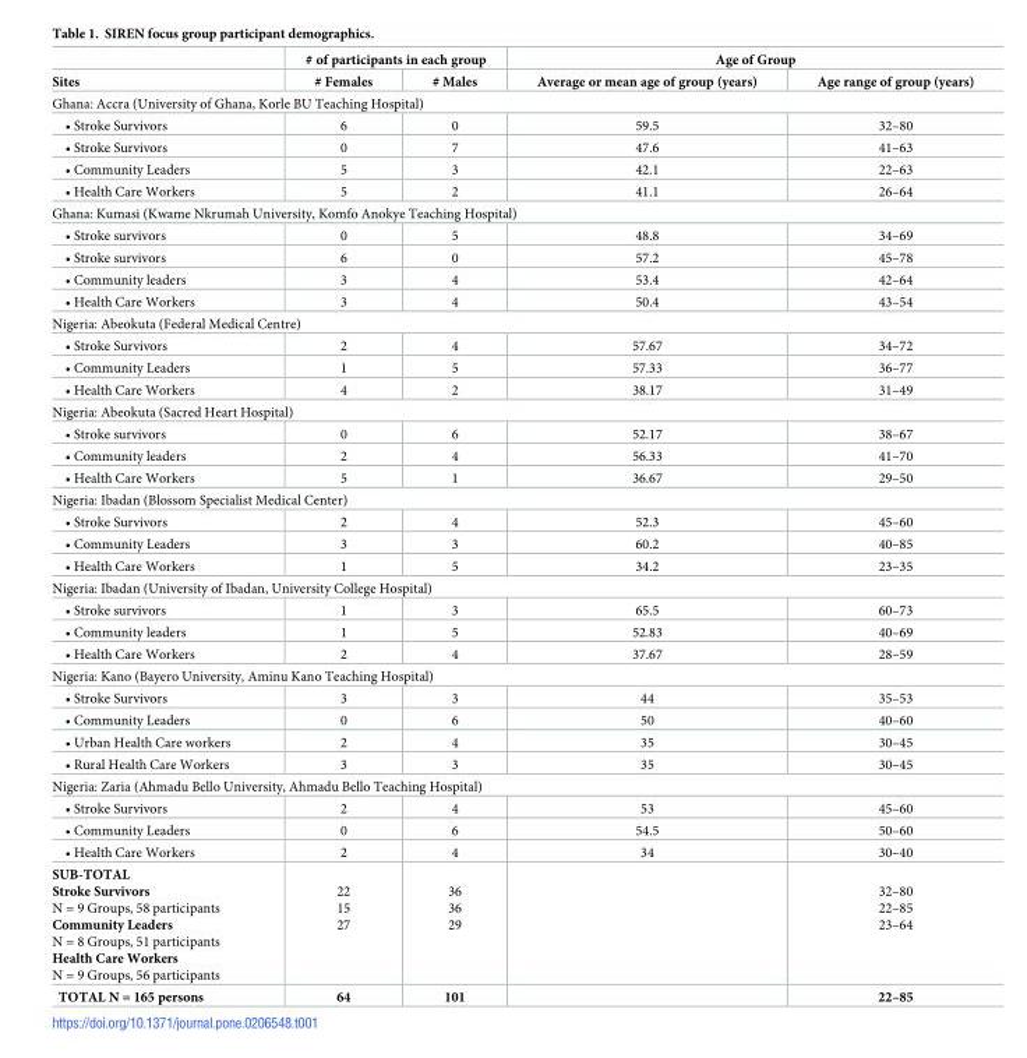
<table><thead><tr><td rowspan="2">Sites</td><td colspan="2"># of participants in each group</td><td colspan="2">Age of Group</td></tr><tr><td># Females</td><td># Males</td><td>Average or mean age of group (years)</td><td>Age range of group (years)</td></tr></thead><tbody><tr><td colspan="5">Ghana: Accra (University of Ghana, Korle BU Teaching Hospital)</td></tr><tr><td>• Stroke Survivors</td><td>6</td><td>0</td><td>59.5</td><td>32–80</td></tr><tr><td>• Stroke Survivors</td><td>0</td><td>7</td><td>47.6</td><td>41–63</td></tr><tr><td>• Community Leaders</td><td>5</td><td>3</td><td>42.1</td><td>22–63</td></tr><tr><td>• Health Care Workers</td><td>5</td><td>2</td><td>41.1</td><td>26–64</td></tr><tr><td colspan="5">Ghana: Kumasi (Kwame Nkrumah University, Komfo Anokye Teaching Hospital)</td></tr><tr><td>• Stroke survivors</td><td>0</td><td>5</td><td>48.8</td><td>34–69</td></tr><tr><td>• Stroke survivors</td><td>6</td><td>0</td><td>57.2</td><td>45–78</td></tr><tr><td>• Community leaders</td><td>3</td><td>4</td><td>53.4</td><td>42–64</td></tr><tr><td>• Health Care Workers</td><td>3</td><td>4</td><td>50.4</td><td>43–54</td></tr><tr><td colspan="5">Nigeria: Abeokuta (Federal Medical Centre)</td></tr><tr><td>• Stroke Survivors</td><td>2</td><td>4</td><td>57.67</td><td>34–72</td></tr><tr><td>• Community Leaders</td><td>1</td><td>5</td><td>57.33</td><td>36–77</td></tr><tr><td>• Health Care Workers</td><td>4</td><td>2</td><td>38.17</td><td>31–49</td></tr><tr><td colspan="5">Nigeria: Abeokuta (Sacred Heart Hospital)</td></tr><tr><td>• Stroke survivors</td><td>0</td><td>6</td><td>52.17</td><td>38–67</td></tr><tr><td>• Community leaders</td><td>2</td><td>4</td><td>56.33</td><td>41–70</td></tr><tr><td>• Health Care Workers</td><td>5</td><td>1</td><td>36.67</td><td>29–50</td></tr><tr><td colspan="5">Nigeria: Ibadan (Blossom Specialist Medical Center)</td></tr><tr><td>• Stroke Survivors</td><td>2</td><td>4</td><td>52.3</td><td>45–60</td></tr><tr><td>• Community Leaders</td><td>3</td><td>3</td><td>60.2</td><td>40–85</td></tr><tr><td>• Health Care Workers</td><td>1</td><td>5</td><td>34.2</td><td>23–35</td></tr><tr><td colspan="5">Nigeria: Ibadan (University of Ibadan, University College Hospital)</td></tr><tr><td>• Stroke survivors</td><td>1</td><td>3</td><td>65.5</td><td>60–73</td></tr><tr><td>• Community leaders</td><td>1</td><td>5</td><td>52.83</td><td>40–69</td></tr><tr><td>• Health Care Workers</td><td>2</td><td>4</td><td>37.67</td><td>28–59</td></tr><tr><td colspan="5">Nigeria: Kano (Bayero University, Aminu Kano Teaching Hospital)</td></tr><tr><td>• Stroke Survivors</td><td>3</td><td>3</td><td>44</td><td>35–53</td></tr><tr><td>• Community Leaders</td><td>0</td><td>6</td><td>50</td><td>40–60</td></tr><tr><td>• Urban Health Care workers</td><td>2</td><td>4</td><td>35</td><td>30–45</td></tr><tr><td>• Rural Health Care Workers</td><td>3</td><td>3</td><td>35</td><td>30–45</td></tr><tr><td colspan="5">Nigeria: Zaria (Ahmadu Bello University, Ahmadu Bello Teaching Hospital)</td></tr><tr><td>• Stroke Survivors</td><td>2</td><td>4</td><td>53</td><td>45–60</td></tr><tr><td>• Community Leaders</td><td>0</td><td>6</td><td>54.5</td><td>50–60</td></tr><tr><td>• Health Care Workers</td><td>2</td><td>4</td><td>34</td><td>30–40</td></tr><tr><td>SUB-TOTAL Stroke Survivors N = 9 Groups, 58 participants Community Leaders N = 8 Groups, 51 participants Health Care Workers N = 9 Groups, 56 participants</td><td>22 15 27</td><td>36 36 29</td><td></td><td>32–80 22–85 23–64</td></tr><tr><td>TOTAL N = 165 persons</td><td>64</td><td>101</td><td></td><td>22–85</td></tr></tbody></table>